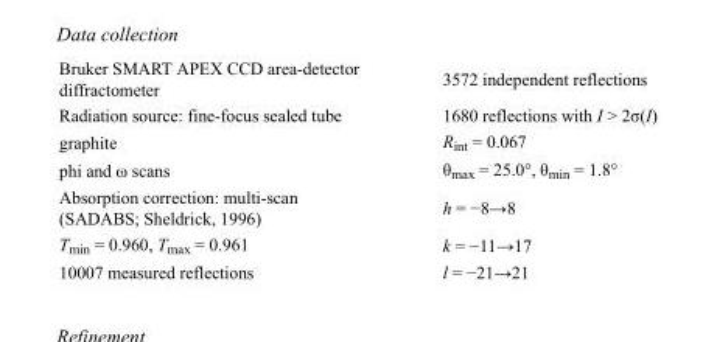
<table><tbody><tr><td>Bruker SMART APEX CCD area-detector diffractometer</td><td>3572 independent reflections</td></tr><tr><td>Radiation source: fine-focus sealed tube</td><td>1680 reflections with I &gt; 2σ(I)</td></tr><tr><td>graphite</td><td>R<sub>int</sub> = 0.067</td></tr><tr><td>phi and ω scans</td><td>θ<sub>max</sub> = 25.0°, θ<sub>min</sub> = 1.8°</td></tr><tr><td>Absorption correction: multi-scan (SADABS; Sheldrick, 1996)</td><td>h = −8→8</td></tr><tr><td>T<sub>min</sub> = 0.960, T<sub>max</sub> = 0.961</td><td>k = −11→17</td></tr><tr><td>10007 measured reflections</td><td>l = −21→21</td></tr></tbody></table>